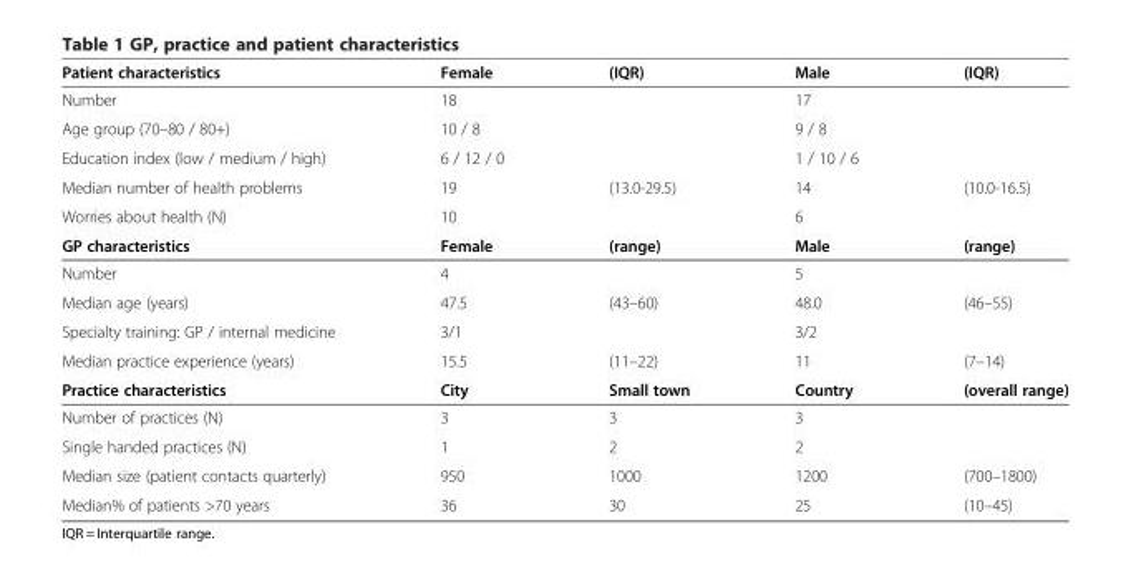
<table><thead><tr><td>Patient characteristics</td><td>Female</td><td>(IQR)</td><td>Male</td><td>(IQR)</td></tr></thead><tbody><tr><td>Number</td><td>18</td><td></td><td>17</td><td></td></tr><tr><td>Age group (70–80 / 80+)</td><td>10 / 8</td><td></td><td>9 / 8</td><td></td></tr><tr><td>Education index (low / medium / high)</td><td>6 / 12 / 0</td><td></td><td>1 / 10 / 6</td><td></td></tr><tr><td>Median number of health problems</td><td>19</td><td>(13.0-29.5)</td><td>14</td><td>(10.0-16.5)</td></tr><tr><td>Worries about health (N)</td><td>10</td><td></td><td>6</td><td></td></tr><tr><td>GP characteristics</td><td>Female</td><td>(range)</td><td>Male</td><td>(range)</td></tr><tr><td>Number</td><td>4</td><td></td><td>5</td><td></td></tr><tr><td>Median age (years)</td><td>47.5</td><td>(43–60)</td><td>48.0</td><td>(46–55)</td></tr><tr><td>Specialty training: GP / internal medicine</td><td>3/1</td><td></td><td>3/2</td><td></td></tr><tr><td>Median practice experience (years)</td><td>15.5</td><td>(11–22)</td><td>11</td><td>(7–14)</td></tr><tr><td>Practice characteristics</td><td>City</td><td>Small town</td><td>Country</td><td>(overall range)</td></tr><tr><td>Number of practices (N)</td><td>3</td><td>3</td><td>3</td><td></td></tr><tr><td>Single handed practices (N)</td><td>1</td><td>2</td><td>2</td><td></td></tr><tr><td>Median size (patient contacts quarterly)</td><td>950</td><td>1000</td><td>1200</td><td>(700–1800)</td></tr><tr><td>Median% of patients &gt;70 years</td><td>36</td><td>30</td><td>25</td><td>(10–45)</td></tr></tbody></table>